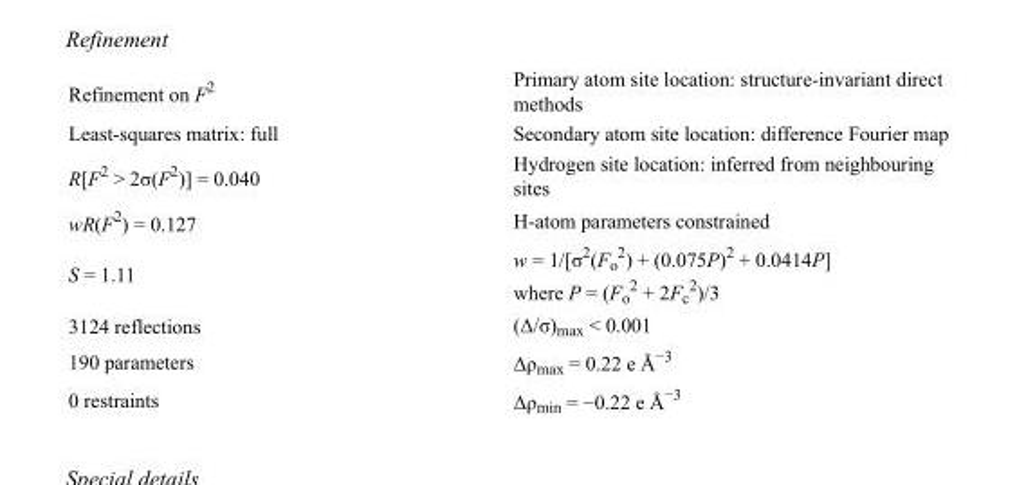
<table><tbody><tr><td>Refinement on F<sup>2</sup></td><td>Primary atom site location: structure-invariant direct methods</td></tr><tr><td>Least-squares matrix: full</td><td>Secondary atom site location: difference Fourier map</td></tr><tr><td>R[F<sup>2</sup> &gt; 2σ(F<sup>2</sup>)] = 0.040</td><td>Hydrogen site location: inferred from neighbouring sites</td></tr><tr><td>wR(F<sup>2</sup>) = 0.127</td><td>H-atom parameters constrained</td></tr><tr><td>S = 1.11</td><td>w = 1/[σ<sup>2</sup>(F<sub>o</sub> <sup>2</sup>) + (0.075P)<sup>2</sup> + 0.0414P] where P = (F<sub>o</sub> <sup>2</sup> + 2F<sub>c</sub> <sup>2</sup>)/3</td></tr><tr><td>3124 reflections</td><td>(Δ/σ)<sub>max</sub> &lt; 0.001</td></tr><tr><td>190 parameters</td><td>Δρ<sub>max</sub> = 0.22 e Å<sup>−3</sup></td></tr><tr><td>0 restraints</td><td>Δρ<sub>min</sub> = −0.22 e Å<sup>−3</sup></td></tr></tbody></table>